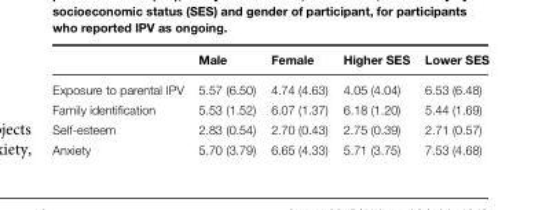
<table><thead><tr><td></td><td>Male</td><td>Female</td><td>Higher SES</td><td>Lower SES</td></tr></thead><tbody><tr><td>Exposure to parental IPV</td><td>5.57 (6.50)</td><td>4.74 (4.63)</td><td>4.05 (4.04)</td><td>6.53 (6.48)</td></tr><tr><td>Family identification</td><td>5.53 (1.52)</td><td>6.07 (1.37)</td><td>6.18 (1.20)</td><td>5.44 (1.69)</td></tr><tr><td>Self-esteem</td><td>2.83 (0.54)</td><td>2.70 (0.43)</td><td>2.75 (0.39)</td><td>2.71 (0.57)</td></tr><tr><td>Anxiety</td><td>5.70 (3.79)</td><td>6.65 (4.33)</td><td>5.71 (3.75)</td><td>7.53 (4.68)</td></tr></tbody></table>